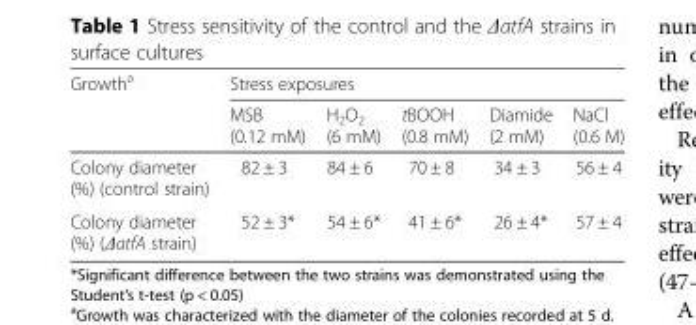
<table><thead><tr><td rowspan="2">Growth<sup>a</sup></td><td colspan="5">Stress exposures</td></tr><tr><td>MSB (0.12 mM)</td><td>H<sub>2</sub>O<sub>2</sub> (6 mM)</td><td>tBOOH (0.8 mM)</td><td>Diamide (2 mM)</td><td>NaCl (0.6 M)</td></tr></thead><tbody><tr><td>Colony diameter (%) (control strain)</td><td>82 ± 3</td><td>84 ± 6</td><td>70 ± 8</td><td>34 ± 3</td><td>56 ± 4</td></tr><tr><td>Colony diameter (%) (ΔatfA strain)</td><td>52 ± 3*</td><td>54 ± 6*</td><td>41 ± 6*</td><td>26 ± 4*</td><td>57 ± 4</td></tr></tbody></table>